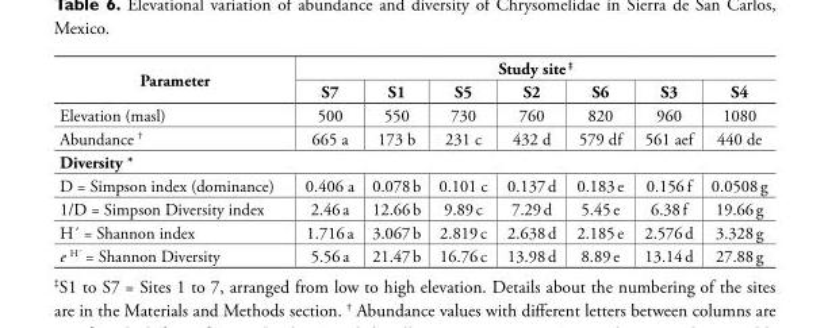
<table><thead><tr><td rowspan="2">Parameter</td><td colspan="7">Study site <sup>‡</sup></td></tr><tr><td>S7</td><td>S1</td><td>S5</td><td>S2</td><td>S6</td><td>S3</td><td>S4</td></tr></thead><tbody><tr><td>Elevation (masl)</td><td>500</td><td>550</td><td>730</td><td>760</td><td>820</td><td>960</td><td>1080</td></tr><tr><td>Abundance <sup>†</sup></td><td>665 a</td><td>173 b</td><td>231 c</td><td>432 d</td><td>579 df</td><td>561 aef</td><td>440 de</td></tr><tr><td colspan="8">Diversity *</td></tr><tr><td>D = Simpson index (dominance)</td><td>0.406 a</td><td>0.078 b</td><td>0.101 c</td><td>0.137 d</td><td>0.183 e</td><td>0.156 f</td><td>0.0508 g</td></tr><tr><td>1/D = Simpson Diversity index</td><td>2.46 a</td><td>12.66 b</td><td>9.89 c</td><td>7.29 d</td><td>5.45 e</td><td>6.38 f</td><td>19.66 g</td></tr><tr><td>H´ = Shannon index</td><td>1.716 a</td><td>3.067 b</td><td>2.819 c</td><td>2.638 d</td><td>2.185 e</td><td>2.576 d</td><td>3.328 g</td></tr><tr><td>e <sup>H´</sup> = Shannon Diversity</td><td>5.56 a</td><td>21.47 b</td><td>16.76 c</td><td>13.98 d</td><td>8.89 e</td><td>13.14 d</td><td>27.88 g</td></tr></tbody></table>